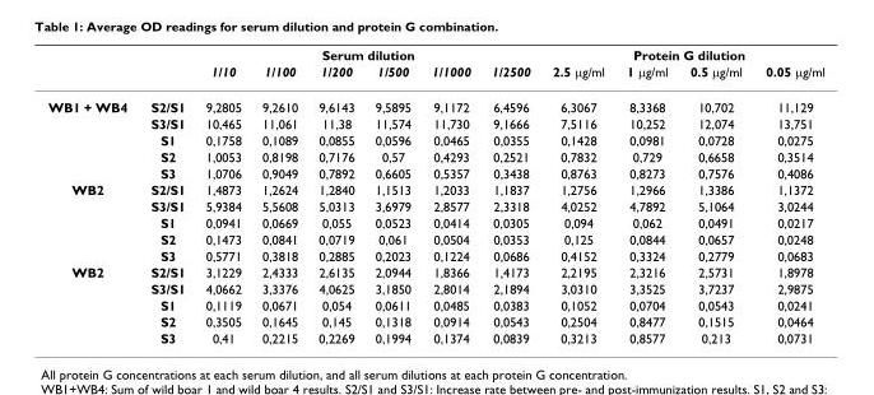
<table><thead><tr><td rowspan="2"></td><td rowspan="2"></td><td colspan="6">Serum dilution</td><td colspan="4">Protein G dilution</td></tr><tr><td>1/10</td><td>1/100</td><td>1/200</td><td>1/500</td><td>1/1000</td><td>1/2500</td><td>2.5 μg/ml</td><td>1 μg/ml</td><td>0.5 μg/ml</td><td>0.05 μg/ml</td></tr></thead><tbody><tr><td rowspan="5">WB1 + WB4</td><td>S2/S1</td><td>9,2805</td><td>9,2610</td><td>9,6143</td><td>9,5895</td><td>9,1172</td><td>6,4596</td><td>6,3067</td><td>8,3368</td><td>10,702</td><td>11,129</td></tr><tr><td>S3/S1</td><td>10,465</td><td>11,061</td><td>11,38</td><td>11,574</td><td>11,730</td><td>9,1666</td><td>7,5116</td><td>10,252</td><td>12,074</td><td>13,751</td></tr><tr><td>S1</td><td>0,1758</td><td>0,1089</td><td>0,0855</td><td>0,0596</td><td>0,0465</td><td>0,0355</td><td>0,1428</td><td>0,0981</td><td>0,0728</td><td>0,0275</td></tr><tr><td>S2</td><td>1,0053</td><td>0,8198</td><td>0,7176</td><td>0,57</td><td>0,4293</td><td>0,2521</td><td>0,7832</td><td>0,729</td><td>0,6658</td><td>0,3514</td></tr><tr><td>S3</td><td>1,0706</td><td>0,9049</td><td>0,7892</td><td>0,6605</td><td>0,5357</td><td>0,3438</td><td>0,8763</td><td>0,8273</td><td>0,7576</td><td>0,4086</td></tr><tr><td rowspan="5">WB2</td><td>S2/S1</td><td>1,4873</td><td>1,2624</td><td>1,2840</td><td>1,1513</td><td>1,2033</td><td>1,1837</td><td>1,2756</td><td>1,2966</td><td>1,3386</td><td>1,1372</td></tr><tr><td>S3/S1</td><td>5,9384</td><td>5,5608</td><td>5,0313</td><td>3,6979</td><td>2,8577</td><td>2,3318</td><td>4,0252</td><td>4,7892</td><td>5,1064</td><td>3,0244</td></tr><tr><td>S1</td><td>0,0941</td><td>0,0669</td><td>0,055</td><td>0,0523</td><td>0,0414</td><td>0,0305</td><td>0,094</td><td>0,062</td><td>0,0491</td><td>0,0217</td></tr><tr><td>S2</td><td>0,1473</td><td>0,0841</td><td>0,0719</td><td>0,061</td><td>0,0504</td><td>0,0353</td><td>0,125</td><td>0,0844</td><td>0,0657</td><td>0,0248</td></tr><tr><td>S3</td><td>0,5771</td><td>0,3818</td><td>0,2885</td><td>0,2023</td><td>0,1224</td><td>0,0686</td><td>0,4152</td><td>0,3324</td><td>0,2779</td><td>0,0683</td></tr><tr><td rowspan="5">WB2</td><td>S2/S1</td><td>3,1229</td><td>2,4333</td><td>2,6135</td><td>2,0944</td><td>1,8366</td><td>1,4173</td><td>2,2195</td><td>2,3216</td><td>2,5731</td><td>1,8978</td></tr><tr><td>S3/S1</td><td>4,0662</td><td>3,3376</td><td>4,0625</td><td>3,1850</td><td>2,8014</td><td>2,1894</td><td>3,0310</td><td>3,3525</td><td>3,7237</td><td>2,9875</td></tr><tr><td>S1</td><td>0,1119</td><td>0,0671</td><td>0,054</td><td>0,0611</td><td>0,0485</td><td>0,0383</td><td>0,1052</td><td>0,0704</td><td>0,0543</td><td>0,0241</td></tr><tr><td>S2</td><td>0,3505</td><td>0,1645</td><td>0,145</td><td>0,1318</td><td>0,0914</td><td>0,0543</td><td>0,2504</td><td>0,8477</td><td>0,1515</td><td>0,0464</td></tr><tr><td>S3</td><td>0,41</td><td>0,2215</td><td>0,2269</td><td>0,1994</td><td>0,1374</td><td>0,0839</td><td>0,3213</td><td>0,8577</td><td>0,213</td><td>0,0731</td></tr></tbody></table>